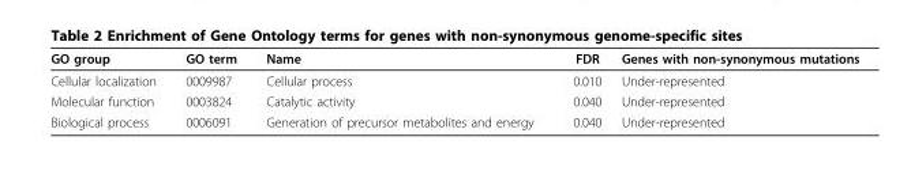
<table><thead><tr><td>GO group</td><td>GO term</td><td>Name</td><td>FDR</td><td>Genes with non-synonymous mutations</td></tr></thead><tbody><tr><td>Cellular localization</td><td>0009987</td><td>Cellular process</td><td>0.010</td><td>Under-represented</td></tr><tr><td>Molecular function</td><td>0003824</td><td>Catalytic activity</td><td>0.040</td><td>Under-represented</td></tr><tr><td>Biological process</td><td>0006091</td><td>Generation of precursor metabolites and energy</td><td>0.040</td><td>Under-represented</td></tr></tbody></table>